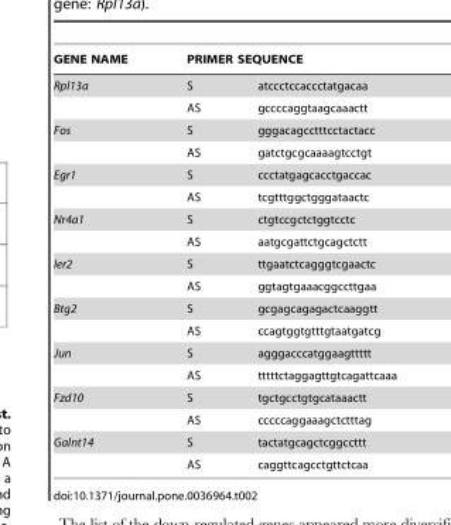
<table><thead><tr><td rowspan="2">GENE NAME Rpl13a</td><td colspan="2">PRIMER SEQUENCE</td></tr><tr><td>S</td><td>atccctccaccctatgacaa</td></tr></thead><tbody><tr><td></td><td>AS</td><td>gccccaggtaagcaaactt</td></tr><tr><td rowspan="2">Fos</td><td>S</td><td>gggacagcctttcctactacc</td></tr><tr><td>AS</td><td>gatctgcgcaaaagtcctgt</td></tr><tr><td rowspan="2">Egr1</td><td>S</td><td>ccctatgagcacctgaccac</td></tr><tr><td>AS</td><td>tcgtttggctgggataactc</td></tr><tr><td rowspan="2">Nr4a1</td><td>S</td><td>ctgtccgctctggtcctc</td></tr><tr><td>AS</td><td>aatgcgattctgcagctctt</td></tr><tr><td rowspan="2">Ier2</td><td>S</td><td>ttgaatctcagggtcgaactc</td></tr><tr><td>AS</td><td>ggtagtgaaacggccttgaa</td></tr><tr><td rowspan="2">Btg2</td><td>S</td><td>gcgagcagagactcaaggtt</td></tr><tr><td>AS</td><td>ccagtggtgtttgtaatgatcg</td></tr><tr><td rowspan="2">Jun</td><td>S</td><td>agggacccatggaagttttt</td></tr><tr><td>AS</td><td>tttttctaggagttgtcagattcaaa</td></tr><tr><td rowspan="2">Fzd10</td><td>S</td><td>tgctgcctgtgcataaactt</td></tr><tr><td>AS</td><td>cccccaggaaagctctttag</td></tr><tr><td rowspan="2">Galnt14</td><td>S</td><td>tactatgcagctcggccttt</td></tr><tr><td>AS</td><td>caggttcagcctgttctcaa</td></tr></tbody></table>